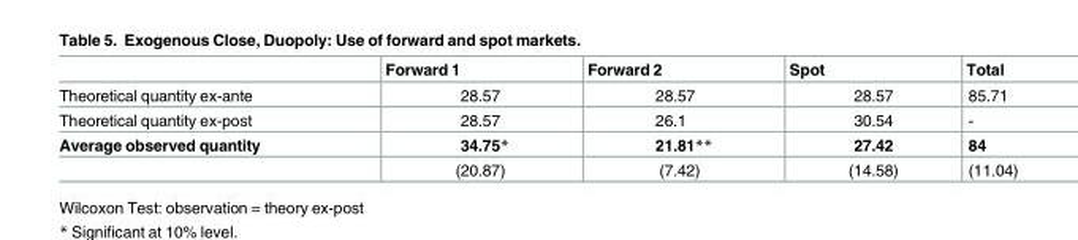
<table><thead><tr><td></td><td>Forward 1</td><td>Forward 2</td><td>Spot</td><td>Total</td></tr></thead><tbody><tr><td>Theoretical quantity ex-ante</td><td>28.57</td><td>28.57</td><td>28.57</td><td>85.71</td></tr><tr><td>Theoretical quantity ex-post</td><td>28.57</td><td>26.1</td><td>30.54</td><td>-</td></tr><tr><td rowspan="2">Average observed quantity</td><td>34.75*</td><td>21.81**</td><td>27.42</td><td>84</td></tr><tr><td>(20.87)</td><td>(7.42)</td><td>(14.58)</td><td>(11.04)</td></tr></tbody></table>